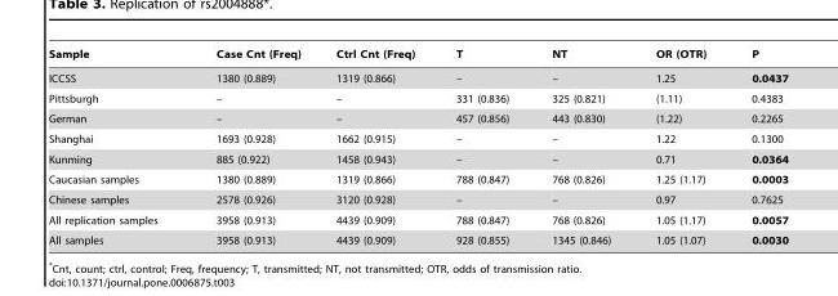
<table><thead><tr><td>Sample</td><td>Case Cnt (Freq)</td><td>Ctrl Cnt (Freq)</td><td>T</td><td>NT</td><td>OR (OTR)</td><td>P</td></tr></thead><tbody><tr><td>ICCSS</td><td>1380 (0.889)</td><td>1319 (0.866)</td><td>–</td><td>–</td><td>1.25</td><td>0.0437</td></tr><tr><td>Pittsburgh</td><td>–</td><td>–</td><td>331 (0.836)</td><td>325 (0.821)</td><td>(1.11)</td><td>0.4383</td></tr><tr><td>German</td><td>–</td><td>–</td><td>457 (0.856)</td><td>443 (0.830)</td><td>(1.22)</td><td>0.2265</td></tr><tr><td>Shanghai</td><td>1693 (0.928)</td><td>1662 (0.915)</td><td>–</td><td>–</td><td>1.22</td><td>0.1300</td></tr><tr><td>Kunming</td><td>885 (0.922)</td><td>1458 (0.943)</td><td>–</td><td>–</td><td>0.71</td><td>0.0364</td></tr><tr><td>Caucasian samples</td><td>1380 (0.889)</td><td>1319 (0.866)</td><td>788 (0.847)</td><td>768 (0.826)</td><td>1.25 (1.17)</td><td>0.0003</td></tr><tr><td>Chinese samples</td><td>2578 (0.926)</td><td>3120 (0.928)</td><td>–</td><td>–</td><td>0.97</td><td>0.7625</td></tr><tr><td>All replication samples</td><td>3958 (0.913)</td><td>4439 (0.909)</td><td>788 (0.847)</td><td>768 (0.826)</td><td>1.05 (1.17)</td><td>0.0057</td></tr><tr><td>All samples</td><td>3958 (0.913)</td><td>4439 (0.909)</td><td>928 (0.855)</td><td>1345 (0.846)</td><td>1.05 (1.07)</td><td>0.0030</td></tr></tbody></table>